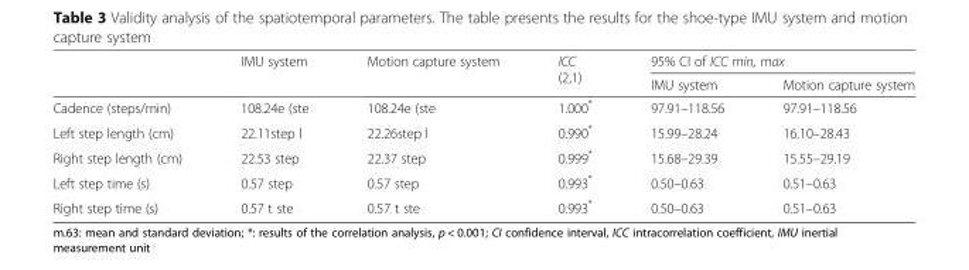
<table><thead><tr><td rowspan="2"></td><td rowspan="2">IMU system</td><td rowspan="2">Motion capture system</td><td rowspan="2">ICC (2,1)</td><td colspan="2">95% CI of ICC min, max</td></tr><tr><td>IMU system</td><td>Motion capture system</td></tr></thead><tbody><tr><td>Cadence (steps/min)</td><td>108.24e (ste</td><td>108.24e (ste</td><td>1.000*</td><td>97.91–118.56</td><td>97.91–118.56</td></tr><tr><td>Left step length (cm)</td><td>22.11step l</td><td>22.26step l</td><td>0.990*</td><td>15.99–28.24</td><td>16.10–28.43</td></tr><tr><td>Right step length (cm)</td><td>22.53 step</td><td>22.37 step</td><td>0.999*</td><td>15.68–29.39</td><td>15.55–29.19</td></tr><tr><td>Left step time (s)</td><td>0.57 step</td><td>0.57 step</td><td>0.993*</td><td>0.50–0.63</td><td>0.51–0.63</td></tr><tr><td>Right step time (s)</td><td>0.57 t ste</td><td>0.57 t ste</td><td>0.993*</td><td>0.50–0.63</td><td>0.51–0.63</td></tr></tbody></table>